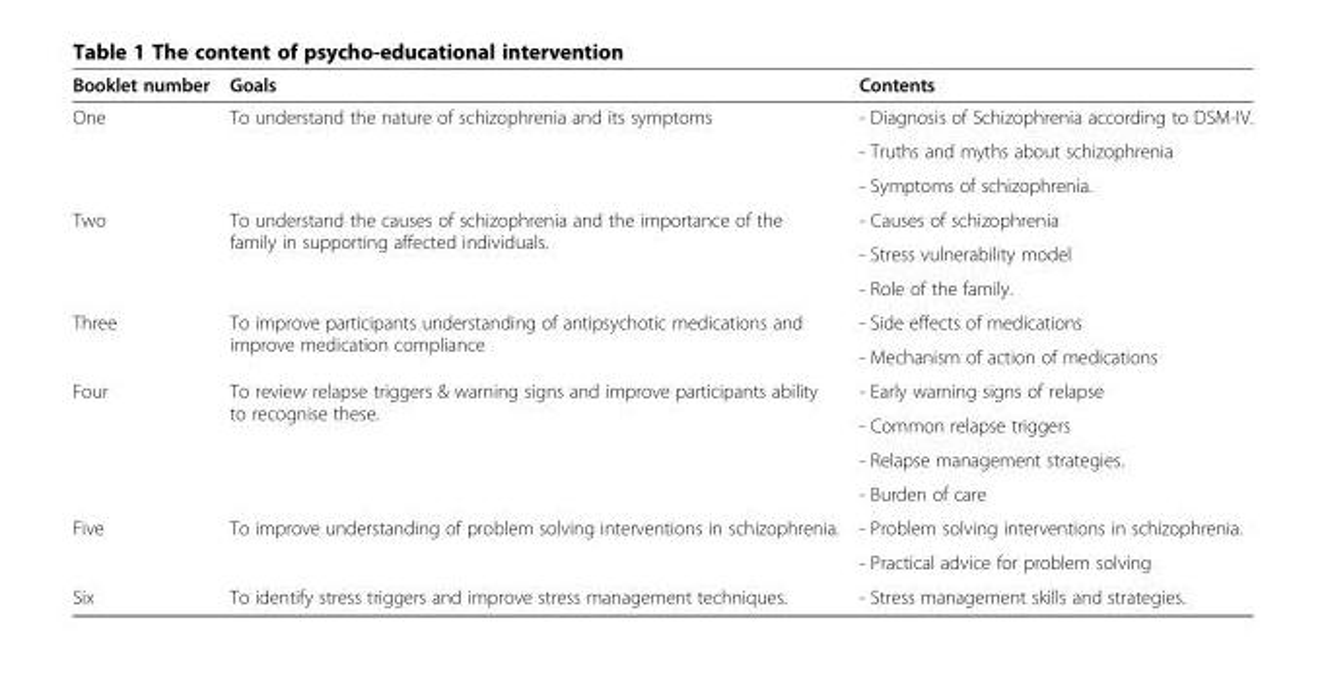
<table><thead><tr><td>Booklet number</td><td>Goals</td><td>Contents</td></tr></thead><tbody><tr><td rowspan="3">One</td><td rowspan="3">To understand the nature of schizophrenia and its symptoms</td><td>- Diagnosis of Schizophrenia according to DSM-IV.</td></tr><tr><td>- Truths and myths about schizophrenia</td></tr><tr><td>- Symptoms of schizophrenia.</td></tr><tr><td rowspan="3">Two</td><td rowspan="3">To understand the causes of schizophrenia and the importance of the family in supporting affected individuals.</td><td>- Causes of schizophrenia</td></tr><tr><td>- Stress vulnerability model</td></tr><tr><td>- Role of the family.</td></tr><tr><td rowspan="2">Three</td><td rowspan="2">To improve participants understanding of antipsychotic medications and improve medication compliance</td><td>- Side effects of medications</td></tr><tr><td>- Mechanism of action of medications</td></tr><tr><td rowspan="4">Four</td><td rowspan="4">To review relapse triggers &amp; warning signs and improve participants ability to recognise these.</td><td>- Early warning signs of relapse</td></tr><tr><td>- Common relapse triggers</td></tr><tr><td>- Relapse management strategies.</td></tr><tr><td>- Burden of care</td></tr><tr><td rowspan="2">Five</td><td rowspan="2">To improve understanding of problem solving interventions in schizophrenia.</td><td>- Problem solving interventions in schizophrenia.</td></tr><tr><td>- Practical advice for problem solving</td></tr><tr><td>Six</td><td>To identify stress triggers and improve stress management techniques.</td><td>- Stress management skills and strategies.</td></tr></tbody></table>